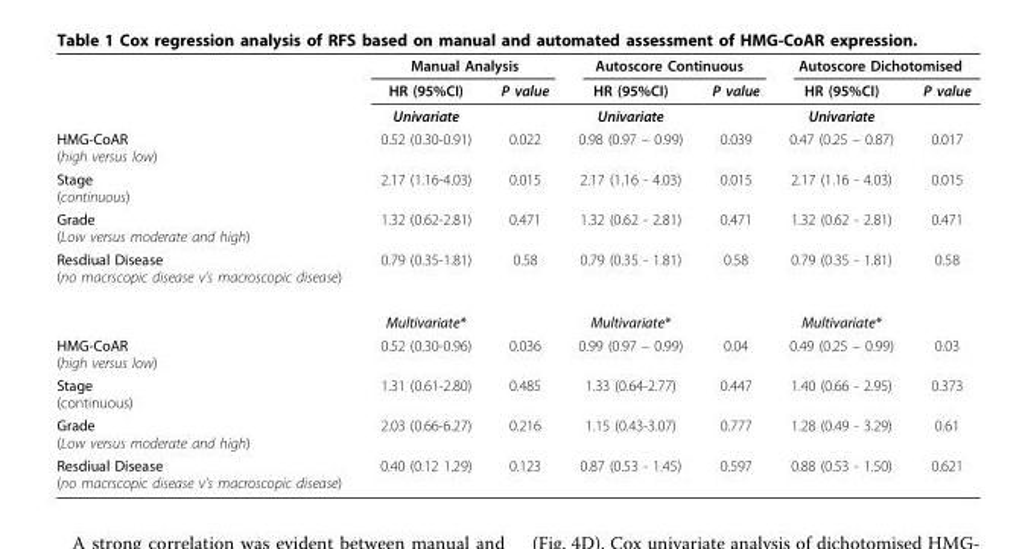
<table><thead><tr><td rowspan="2"></td><td colspan="2">Manual Analysis</td><td colspan="2">Autoscore Continuous</td><td colspan="2">Autoscore Dichotomised</td></tr><tr><td>HR (95%CI)</td><td>P value</td><td>HR (95%CI)</td><td>P value</td><td>HR (95%CI)</td><td>P value</td></tr></thead><tbody><tr><td></td><td>Univariate</td><td></td><td>Univariate</td><td></td><td>Univariate</td><td></td></tr><tr><td>HMG-CoAR (high versus low)</td><td>0.52 (0.30-0.91)</td><td>0.022</td><td>0.98 (0.97 – 0.99)</td><td>0.039</td><td>0.47 (0.25 – 0.87)</td><td>0.017</td></tr><tr><td>Stage (continuous)</td><td>2.17 (1.16-4.03)</td><td>0.015</td><td>2.17 (1.16 - 4.03)</td><td>0.015</td><td>2.17 (1.16 - 4.03)</td><td>0.015</td></tr><tr><td>Grade (Low versus moderate and high)</td><td>1.32 (0.62-2.81)</td><td>0.471</td><td>1.32 (0.62 - 2.81)</td><td>0.471</td><td>1.32 (0.62 - 2.81)</td><td>0.471</td></tr><tr><td rowspan="2">Resdiual Disease (no macrscopic disease v’s macroscopic disease)</td><td>0.79 (0.35-1.81)</td><td>0.58</td><td>0.79 (0.35 - 1.81)</td><td>0.58</td><td>0.79 (0.35 - 1.81)</td><td>0.58</td></tr><tr><td>Multivariate*</td><td></td><td>Multivariate*</td><td></td><td>Multivariate*</td><td></td></tr><tr><td>HMG-CoAR (high versus low)</td><td>0.52 (0.30-0.96)</td><td>0.036</td><td>0.99 (0.97 – 0.99)</td><td>0.04</td><td>0.49 (0.25 – 0.99)</td><td>0.03</td></tr><tr><td>Stage (continuous)</td><td>1.31 (0.61-2.80)</td><td>0.485</td><td>1.33 (0.64-2.77)</td><td>0.447</td><td>1.40 (0.66 - 2.95)</td><td>0.373</td></tr><tr><td>Grade (Low versus moderate and high)</td><td>2.03 (0.66-6.27)</td><td>0.216</td><td>1.15 (0.43-3.07)</td><td>0.777</td><td>1.28 (0.49 - 3.29)</td><td>0.61</td></tr><tr><td>Resdiual Disease (no macrscopic disease v’s macroscopic disease)</td><td>0.40 (0.12 1.29)</td><td>0.123</td><td>0.87 (0.53 - 1.45)</td><td>0.597</td><td>0.88 (0.53 - 1.50)</td><td>0.621</td></tr></tbody></table>